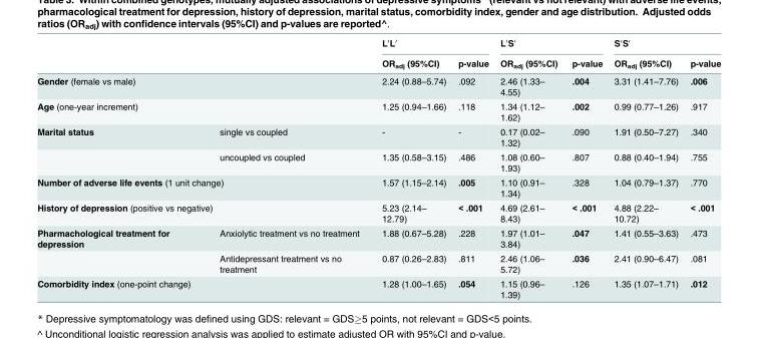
<table><thead><tr><td rowspan="2"></td><td rowspan="2"></td><td colspan="2">L′L′</td><td colspan="2">L′S′</td><td colspan="2">S′S′</td></tr><tr><td>OR<sub>adj</sub> (95%CI)</td><td>p-value</td><td>OR<sub>adj</sub> (95%CI)</td><td>p-value</td><td>OR<sub>adj</sub> (95%CI)</td><td>p-value</td></tr></thead><tbody><tr><td colspan="2">Gender (female vs male)</td><td>2.24 (0.88–5.74)</td><td>.092</td><td>2.46 (1.33– 4.55)</td><td>.004</td><td>3.31 (1.41–7.76)</td><td>.006</td></tr><tr><td colspan="2">Age (one-year increment)</td><td>1.25 (0.94–1.66)</td><td>.118</td><td>1.34 (1.12– 1.62)</td><td>.002</td><td>0.99 (0.77–1.26)</td><td>.917</td></tr><tr><td rowspan="2">Marital status</td><td>single vs coupled</td><td>-</td><td>-</td><td>0.17 (0.02– 1.32)</td><td>.090</td><td>1.91 (0.50–7.27)</td><td>.340</td></tr><tr><td>uncoupled vs coupled</td><td>1.35 (0.58–3.15)</td><td>.486</td><td>1.08 (0.60– 1.93)</td><td>.807</td><td>0.88 (0.40–1.94)</td><td>.755</td></tr><tr><td colspan="2">Number of adverse life events (1 unit change)</td><td>1.57 (1.15–2.14)</td><td>.005</td><td>1.10 (0.91– 1.34)</td><td>.328</td><td>1.04 (0.79–1.37)</td><td>.770</td></tr><tr><td colspan="2">History of depression (positive vs negative)</td><td>5.23 (2.14– 12.79)</td><td>&lt; .001</td><td>4.69 (2.61– 8.43)</td><td>&lt; .001</td><td>4.88 (2.22– 10.72)</td><td>&lt; .001</td></tr><tr><td rowspan="2">Pharmachological treatment for depression</td><td>Anxiolytic treatment vs no treatment</td><td>1.88 (0.67–5.28)</td><td>.228</td><td>1.97 (1.01– 3.84)</td><td>.047</td><td>1.41 (0.55–3.63)</td><td>.473</td></tr><tr><td>Antidepressant treatment vs no treatment</td><td>0.87 (0.26–2.83)</td><td>.811</td><td>2.46 (1.06– 5.72)</td><td>.036</td><td>2.41 (0.90–6.47)</td><td>.081</td></tr><tr><td colspan="2">Comorbidity index (one-point change)</td><td>1.28 (1.00–1.65)</td><td>.054</td><td>1.15 (0.96– 1.39)</td><td>.126</td><td>1.35 (1.07–1.71)</td><td>.012</td></tr></tbody></table>